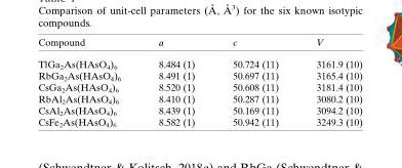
<table><thead><tr><td>Compound</td><td>a</td><td>c</td><td>V</td></tr></thead><tbody><tr><td>TlGa<sub>2</sub>As(HAsO<sub>4</sub>)<sub>6</sub></td><td>8.484 (1)</td><td>50.724 (11)</td><td>3161.9 (10)</td></tr><tr><td>RbGa<sub>2</sub>As(HAsO<sub>4</sub>)<sub>6</sub></td><td>8.491 (1)</td><td>50.697 (11)</td><td>3165.4 (10)</td></tr><tr><td>CsGa<sub>2</sub>As(HAsO<sub>4</sub>)<sub>6</sub></td><td>8.520 (1)</td><td>50.608 (11)</td><td>3181.4 (10)</td></tr><tr><td>RbAl<sub>2</sub>As(HAsO<sub>4</sub>)<sub>6</sub></td><td>8.410 (1)</td><td>50.287 (11)</td><td>3080.2 (10)</td></tr><tr><td>CsAl<sub>2</sub>As(HAsO<sub>4</sub>)<sub>6</sub></td><td>8.439 (1)</td><td>50.169 (11)</td><td>3094.2 (10)</td></tr><tr><td>CsFe<sub>2</sub>As(HAsO<sub>4</sub>)<sub>6</sub></td><td>8.582 (1)</td><td>50.942 (11)</td><td>3249.3 (10)</td></tr></tbody></table>